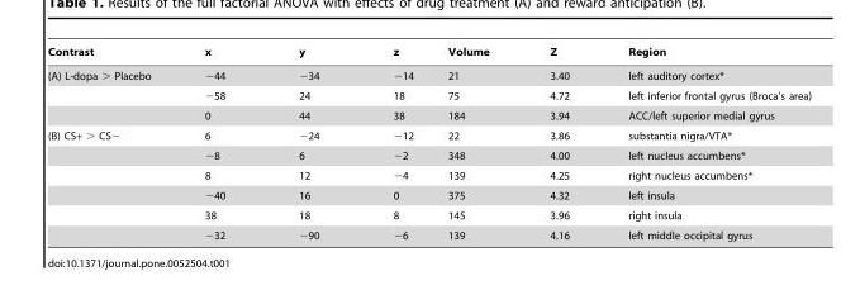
<table><thead><tr><td>Contrast</td><td>x</td><td>y</td><td>z</td><td>Volume</td><td>Z</td><td>Region</td></tr></thead><tbody><tr><td rowspan="3">(A) L-dopa &gt; Placebo</td><td>−44</td><td>−34</td><td>−14</td><td>21</td><td>3.40</td><td>left auditory cortex*</td></tr><tr><td>−58</td><td>24</td><td>18</td><td>75</td><td>4.72</td><td>left inferior frontal gyrus (Broca’s area)</td></tr><tr><td>0</td><td>44</td><td>38</td><td>184</td><td>3.94</td><td>ACC/left superior medial gyrus</td></tr><tr><td rowspan="6">(B) CS+ &gt; CS−</td><td>6</td><td>−24</td><td>−12</td><td>22</td><td>3.86</td><td>substantia nigra/VTA*</td></tr><tr><td>−8</td><td>6</td><td>−2</td><td>348</td><td>4.00</td><td>left nucleus accumbens*</td></tr><tr><td>8</td><td>12</td><td>−4</td><td>139</td><td>4.25</td><td>right nucleus accumbens*</td></tr><tr><td>−40</td><td>16</td><td>0</td><td>375</td><td>4.32</td><td>left insula</td></tr><tr><td>38</td><td>18</td><td>8</td><td>145</td><td>3.96</td><td>right insula</td></tr><tr><td>−32</td><td>−90</td><td>−6</td><td>139</td><td>4.16</td><td>left middle occipital gyrus</td></tr></tbody></table>